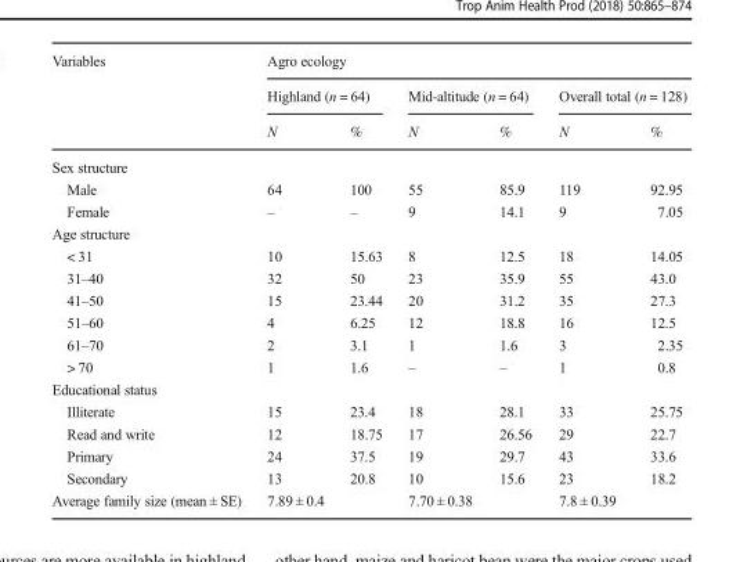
<table><thead><tr><td rowspan="3">Variables</td><td colspan="6">Agro ecology</td></tr><tr><td colspan="2">Highland (n = 64)</td><td colspan="2">Mid-altitude (n = 64)</td><td colspan="2">Overall total (n = 128)</td></tr><tr><td>N</td><td>%</td><td>N</td><td>%</td><td>N</td><td>%</td></tr></thead><tbody><tr><td colspan="7">Sex structure</td></tr><tr><td>Male</td><td>64</td><td>100</td><td>55</td><td>85.9</td><td>119</td><td>92.95</td></tr><tr><td>Female</td><td>–</td><td>–</td><td>9</td><td>14.1</td><td>9</td><td>7.05</td></tr><tr><td colspan="7">Age structure</td></tr><tr><td>&lt; 31</td><td>10</td><td>15.63</td><td>8</td><td>12.5</td><td>18</td><td>14.05</td></tr><tr><td>31–40</td><td>32</td><td>50</td><td>23</td><td>35.9</td><td>55</td><td>43.0</td></tr><tr><td>41–50</td><td>15</td><td>23.44</td><td>20</td><td>31.2</td><td>35</td><td>27.3</td></tr><tr><td>51–60</td><td>4</td><td>6.25</td><td>12</td><td>18.8</td><td>16</td><td>12.5</td></tr><tr><td>61–70</td><td>2</td><td>3.1</td><td>1</td><td>1.6</td><td>3</td><td>2.35</td></tr><tr><td>&gt; 70</td><td>1</td><td>1.6</td><td>–</td><td>–</td><td>1</td><td>0.8</td></tr><tr><td colspan="7">Educational status</td></tr><tr><td>Illiterate</td><td>15</td><td>23.4</td><td>18</td><td>28.1</td><td>33</td><td>25.75</td></tr><tr><td>Read and write</td><td>12</td><td>18.75</td><td>17</td><td>26.56</td><td>29</td><td>22.7</td></tr><tr><td>Primary</td><td>24</td><td>37.5</td><td>19</td><td>29.7</td><td>43</td><td>33.6</td></tr><tr><td>Secondary</td><td>13</td><td>20.8</td><td>10</td><td>15.6</td><td>23</td><td>18.2</td></tr><tr><td>Average family size (mean ± SE)</td><td>7.89 ± 0.4</td><td></td><td>7.70 ± 0.38</td><td></td><td>7.8 ± 0.39</td><td></td></tr></tbody></table>